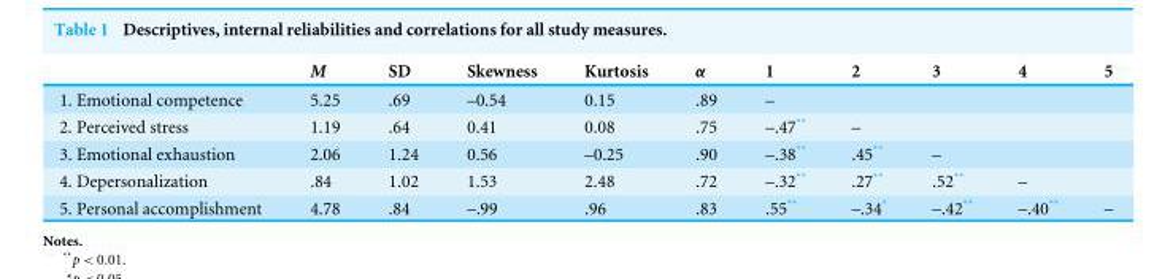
<table><thead><tr><td></td><td>M</td><td>SD</td><td>Skewness</td><td>Kurtosis</td><td>α</td><td>1</td><td>2</td><td>3</td><td>4</td><td>5</td></tr></thead><tbody><tr><td>1. Emotional competence</td><td>5.25</td><td>.69</td><td>–0.54</td><td>0.15</td><td>.89</td><td>–</td><td></td><td></td><td></td><td></td></tr><tr><td>2. Perceived stress</td><td>1.19</td><td>.64</td><td>0.41</td><td>0.08</td><td>.75</td><td>–.47**</td><td>–</td><td></td><td></td><td></td></tr><tr><td>3. Emotional exhaustion</td><td>2.06</td><td>1.24</td><td>0.56</td><td>–0.25</td><td>.90</td><td>–.38**</td><td>.45**</td><td>–</td><td></td><td></td></tr><tr><td>4. Depersonalization</td><td>.84</td><td>1.02</td><td>1.53</td><td>2.48</td><td>.72</td><td>–.32**</td><td>.27**</td><td>.52**</td><td>–</td><td></td></tr><tr><td>5. Personal accomplishment</td><td>4.78</td><td>.84</td><td>–.99</td><td>.96</td><td>.83</td><td>.55**</td><td>–.34*</td><td>–.42**</td><td>–.40**</td><td>–</td></tr></tbody></table>